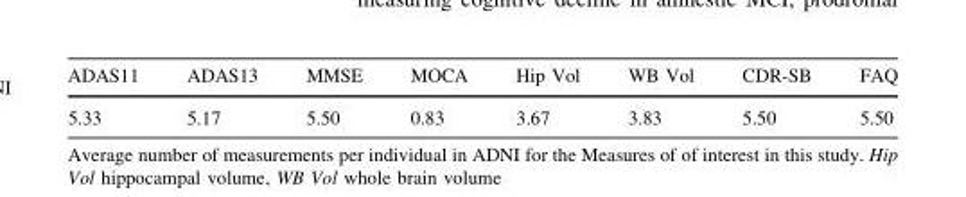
<table><thead><tr><td>ADAS11</td><td>ADAS13</td><td>MMSE</td><td>MOCA</td><td>Hip Vol</td><td>WB Vol</td><td>CDR-SB</td><td>FAQ</td></tr></thead><tbody><tr><td>5.33</td><td>5.17</td><td>5.50</td><td>0.83</td><td>3.67</td><td>3.83</td><td>5.50</td><td>5.50</td></tr></tbody></table>